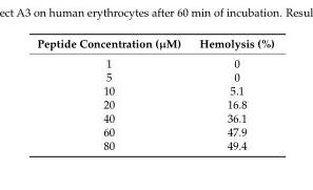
<table><thead><tr><td>Peptide Concentration (µM)</td><td>Hemolysis (%)</td></tr></thead><tbody><tr><td>1</td><td>0</td></tr><tr><td>5</td><td>0</td></tr><tr><td>10</td><td>5.1</td></tr><tr><td>20</td><td>16.8</td></tr><tr><td>40</td><td>36.1</td></tr><tr><td>60</td><td>47.9</td></tr><tr><td>80</td><td>49.4</td></tr></tbody></table>